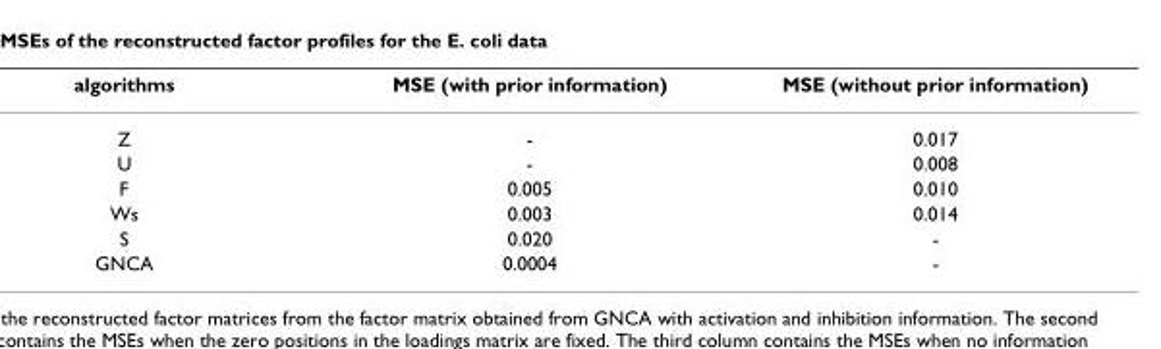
<table><thead><tr><td>algorithms</td><td>MSE (with prior information)</td><td>MSE (without prior information)</td></tr></thead><tbody><tr><td>Z</td><td>-</td><td>0.017</td></tr><tr><td>U</td><td>-</td><td>0.008</td></tr><tr><td>F</td><td>0.005</td><td>0.010</td></tr><tr><td>Ws</td><td>0.003</td><td>0.014</td></tr><tr><td>S</td><td>0.020</td><td>-</td></tr><tr><td>GNCA</td><td>0.0004</td><td>-</td></tr></tbody></table>